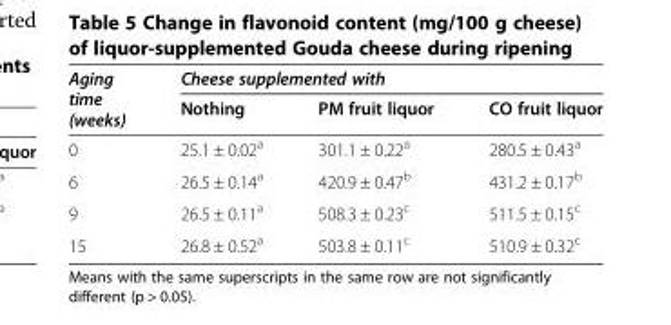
<table><thead><tr><td rowspan="2">Aging time (weeks)</td><td colspan="3">Cheese supplemented with</td></tr><tr><td>Nothing</td><td>PM fruit liquor</td><td>CO fruit liquor</td></tr></thead><tbody><tr><td>0</td><td>25.1 ± 0.02<sup>a</sup></td><td>301.1 ± 0.22<sup>a</sup></td><td>280.5 ± 0.43<sup>a</sup></td></tr><tr><td>6</td><td>26.5 ± 0.14<sup>a</sup></td><td>420.9 ± 0.47<sup>b</sup></td><td>431.2 ± 0.17<sup>b</sup></td></tr><tr><td>9</td><td>26.5 ± 0.11<sup>a</sup></td><td>508.3 ± 0.23<sup>c</sup></td><td>511.5 ± 0.15<sup>c</sup></td></tr><tr><td>15</td><td>26.8 ± 0.52<sup>a</sup></td><td>503.8 ± 0.11<sup>c</sup></td><td>510.9 ± 0.32<sup>c</sup></td></tr></tbody></table>